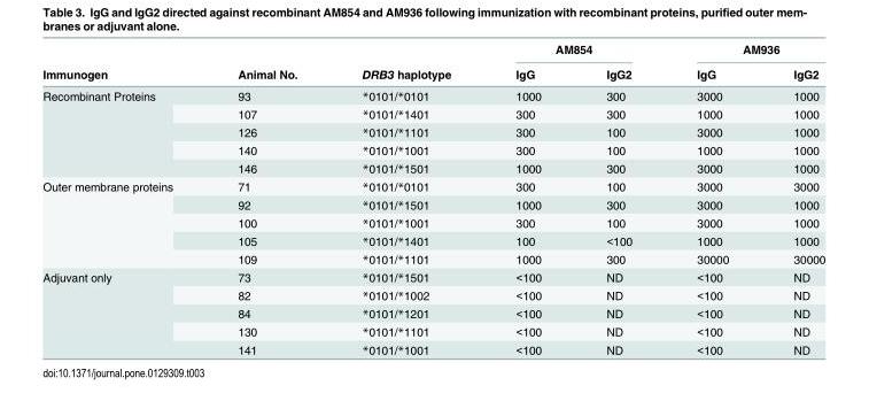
<table><thead><tr><td rowspan="2">Immunogen</td><td rowspan="2">Animal No.</td><td rowspan="2">DRB3 haplotype</td><td colspan="2">AM854</td><td colspan="2">AM936</td></tr><tr><td>IgG</td><td>IgG2</td><td>IgG</td><td>IgG2</td></tr></thead><tbody><tr><td rowspan="5">Recombinant Proteins</td><td>93</td><td>*0101/*0101</td><td>1000</td><td>300</td><td>3000</td><td>1000</td></tr><tr><td>107</td><td>*0101/*1401</td><td>300</td><td>300</td><td>1000</td><td>1000</td></tr><tr><td>126</td><td>*0101/*1101</td><td>300</td><td>100</td><td>3000</td><td>1000</td></tr><tr><td>140</td><td>*0101/*1001</td><td>300</td><td>100</td><td>1000</td><td>1000</td></tr><tr><td>146</td><td>*0101/*1501</td><td>1000</td><td>300</td><td>3000</td><td>1000</td></tr><tr><td rowspan="5">Outer membrane proteins</td><td>71</td><td>*0101/*0101</td><td>300</td><td>100</td><td>3000</td><td>3000</td></tr><tr><td>92</td><td>*0101/*1501</td><td>1000</td><td>300</td><td>3000</td><td>1000</td></tr><tr><td>100</td><td>*0101/*1001</td><td>300</td><td>100</td><td>3000</td><td>1000</td></tr><tr><td>105</td><td>*0101/*1401</td><td>100</td><td>&lt;100</td><td>1000</td><td>1000</td></tr><tr><td>109</td><td>*0101/*1101</td><td>1000</td><td>300</td><td>30000</td><td>30000</td></tr><tr><td rowspan="5">Adjuvant only</td><td>73</td><td>*0101/*1501</td><td>&lt;100</td><td>ND</td><td>&lt;100</td><td>ND</td></tr><tr><td>82</td><td>*0101/*1002</td><td>&lt;100</td><td>ND</td><td>&lt;100</td><td>ND</td></tr><tr><td>84</td><td>*0101/*1201</td><td>&lt;100</td><td>ND</td><td>&lt;100</td><td>ND</td></tr><tr><td>130</td><td>*0101/*1101</td><td>&lt;100</td><td>ND</td><td>&lt;100</td><td>ND</td></tr><tr><td>141</td><td>*0101/*1001</td><td>&lt;100</td><td>ND</td><td>&lt;100</td><td>ND</td></tr></tbody></table>